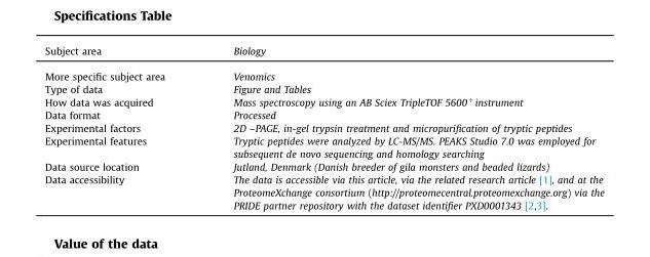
<table><thead><tr><td>Subject area</td><td>Biology</td></tr></thead><tbody><tr><td>More specific subject area</td><td>Venomics</td></tr><tr><td>Type of data</td><td>Figure and Tables</td></tr><tr><td>How data was acquired</td><td>Mass spectroscopy using an AB Sciex TripleTOF 5600<sup>+</sup>instrument</td></tr><tr><td>Data format</td><td>Processed</td></tr><tr><td>Experimental factors</td><td>2D –PAGE, in-gel trypsin treatment and micropurification of tryptic peptides</td></tr><tr><td>Experimental features</td><td>Tryptic peptides were analyzed by LC-MS/MS. PEAKS Studio 7.0 was employed for subsequent de novo sequencing and homology searching</td></tr><tr><td>Data source location</td><td>Jutland, Denmark (Danish breeder of gila monsters and beaded lizards)</td></tr><tr><td>Data accessibility</td><td>The data is accessible via this article, via the related research article [1], and at the ProteomeXchange consortium (http://proteomecentral.proteomexchange.org) via the PRIDE partner repository with the dataset identifier PXD0001343 [2,3].</td></tr></tbody></table>